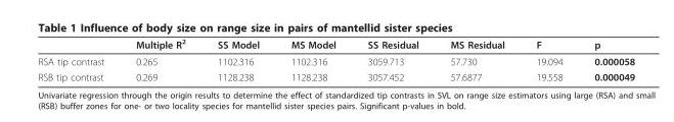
<table><thead><tr><td></td><td>Multiple R<sup>2</sup></td><td>SS Model</td><td>MS Model</td><td>SS Residual</td><td>MS Residual</td><td>F</td><td>p</td></tr></thead><tbody><tr><td>RSA tip contrast</td><td>0.265</td><td>1102.316</td><td>1102.316</td><td>3059.713</td><td>57.730</td><td>19.094</td><td>0.000058</td></tr><tr><td>RSB tip contrast</td><td>0.269</td><td>1128.238</td><td>1128.238</td><td>3057.452</td><td>57.6877</td><td>19.558</td><td>0.000049</td></tr></tbody></table>